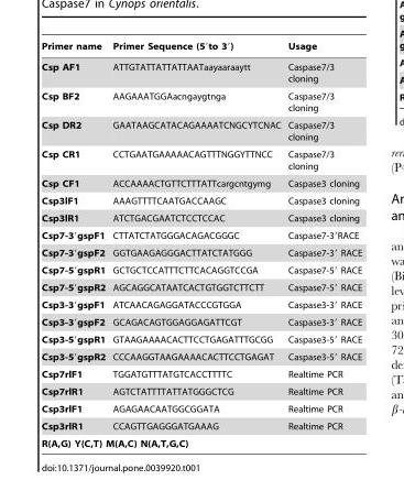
<table><thead><tr><td>Primer name</td><td>Primer Sequence (5′to 3′)</td><td>Usage</td></tr></thead><tbody><tr><td>Csp AF1</td><td>ATTGTATTATTATTAATaayaaraaytt</td><td>Caspase7/3 cloning</td></tr><tr><td>Csp BF2</td><td>AAGAAATGGAacngaygtnga</td><td>Caspase7/3 cloning</td></tr><tr><td>Csp DR2</td><td>GAATAAGCATACAGAAAATCNGCYTCNAC</td><td>Caspase7/3 cloning</td></tr><tr><td>Csp CR1</td><td>CCTGAATGAAAAACAGTTTNGGYTTNCC</td><td>Caspase7/3 cloning</td></tr><tr><td>Csp CF1</td><td>ACCAAAACTGTTCTTTATTcargcntgymg</td><td>Caspase3 cloning</td></tr><tr><td>Csp3lF1</td><td>AAAGTTTTCAATGACCAAGC</td><td>Caspase3 cloning</td></tr><tr><td>Csp3lR1</td><td>ATCTGACGAATCTCCTCCAC</td><td>Caspase3 cloning</td></tr><tr><td>Csp7-3′gspF1</td><td>CTTATCTATGGGACAGACGGGC</td><td>Caspase7-3′RACE</td></tr><tr><td>Csp7-3′gspF2</td><td>GGTGAAGAGGGACTTATCTATGGG</td><td>Caspase7-3′ RACE</td></tr><tr><td>Csp7-5′gspR1</td><td>GCTGCTCCATTTCTTCACAGGTCCGA</td><td>Caspase7-5′ RACE</td></tr><tr><td>Csp7-5′gspR2</td><td>AGCAGGCATAATCACTGTGGTCTTCTT</td><td>Caspase7-5′ RACE</td></tr><tr><td>Csp3-3′gspF1</td><td>ATCAACAGAGGATACCCGTGGA</td><td>Caspase3-3′ RACE</td></tr><tr><td>Csp3-3′gspF2</td><td>GCAGACAGTGGAGGAGATTCGT</td><td>Caspase3-3′ RACE</td></tr><tr><td>Csp3-5′gspR1</td><td>GTAAGAAAACACTTCCTGAGATTTGCGG</td><td>Caspase3-5′ RACE</td></tr><tr><td>Csp3-5′gspR2</td><td>CCCAAGGTAAGAAAACACTTCCTGAGAT</td><td>Caspase3-5′ RACE</td></tr><tr><td>Csp7rlF1</td><td>TGGATGTTTATGTCACCTTTTC</td><td>Realtime PCR</td></tr><tr><td>Csp7rlR1</td><td>AGTCTATTTTATTATGGGCTCG</td><td>Realtime PCR</td></tr><tr><td>Csp3rlF1</td><td>AGAGAACAATGGCGGATA</td><td>Realtime PCR</td></tr><tr><td>Csp3rlR1</td><td>CCAGTTGAGGGATGAAAG</td><td>Realtime PCR</td></tr><tr><td colspan="3">R(A,G) Y(C,T) M(A,C) N(A,T,G,C)</td></tr></tbody></table>